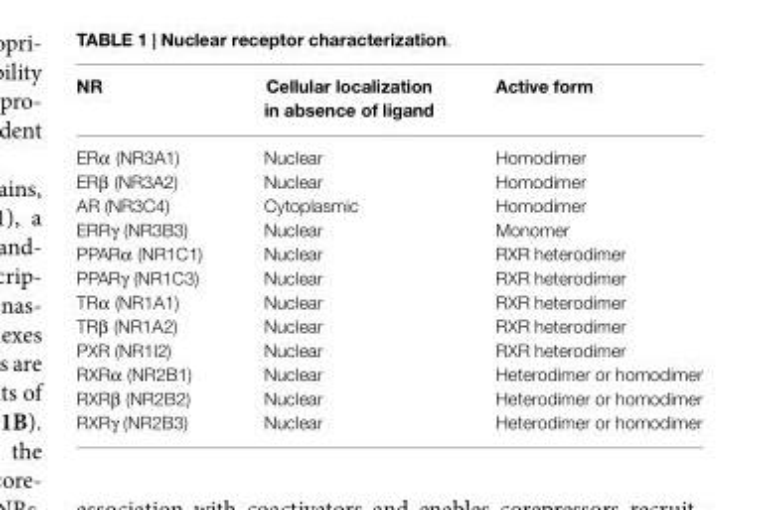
<table><thead><tr><td>NR</td><td>Cellular localization in absence of ligand</td><td>Active form</td></tr></thead><tbody><tr><td>ERα (NR3A1)</td><td>Nuclear</td><td>Homodimer</td></tr><tr><td>ERβ (NR3A2)</td><td>Nuclear</td><td>Homodimer</td></tr><tr><td>AR (NR3C4)</td><td>Cytoplasmic</td><td>Homodimer</td></tr><tr><td>ERRγ (NR3B3)</td><td>Nuclear</td><td>Monomer</td></tr><tr><td>PPARα (NR1C1)</td><td>Nuclear</td><td>RXR heterodimer</td></tr><tr><td>PPARγ (NR1C3)</td><td>Nuclear</td><td>RXR heterodimer</td></tr><tr><td>TRα (NR1A1)</td><td>Nuclear</td><td>RXR heterodimer</td></tr><tr><td>TRβ (NR1A2)</td><td>Nuclear</td><td>RXR heterodimer</td></tr><tr><td>PXR (NR1I2)</td><td>Nuclear</td><td>RXR heterodimer</td></tr><tr><td>RXRα (NR2B1)</td><td>Nuclear</td><td>Heterodimer or homodimer</td></tr><tr><td>RXRβ (NR2B2)</td><td>Nuclear</td><td>Heterodimer or homodimer</td></tr><tr><td>RXRγ (NR2B3)</td><td>Nuclear</td><td>Heterodimer or homodimer</td></tr></tbody></table>